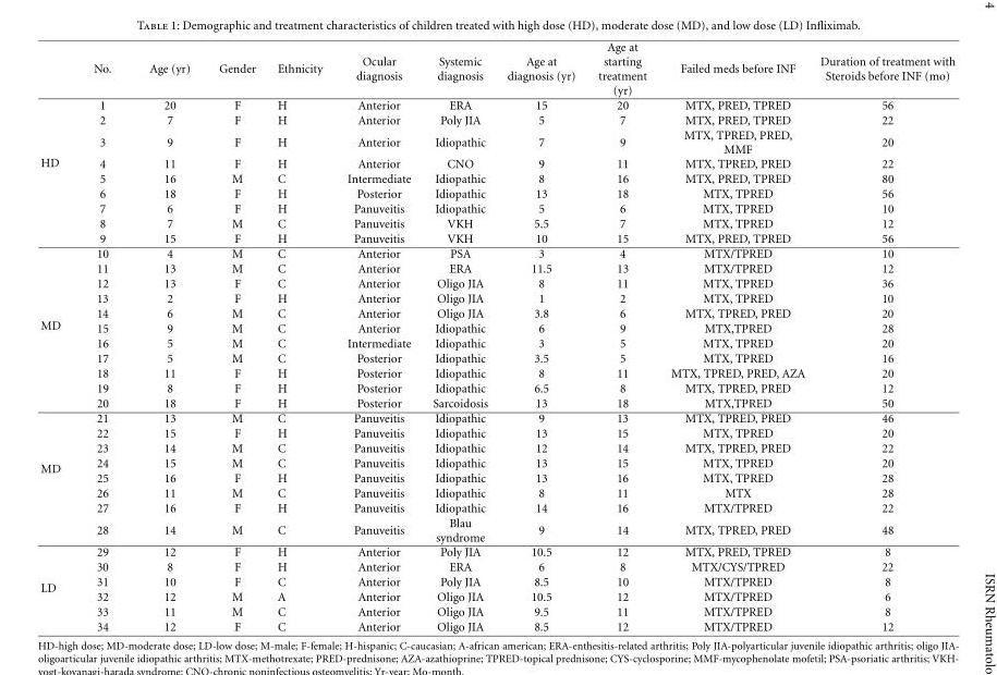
<table><thead><tr><td></td><td>No.</td><td>Age (yr)</td><td>Gender</td><td>Ethnicity</td><td>Ocular diagnosis</td><td>Systemic diagnosis</td><td>Age at diagnosis (yr)</td><td>Age at starting treatment (yr)</td><td>Failed meds before INF</td><td>Duration of treatment with Steroids before INF (mo)</td></tr></thead><tbody><tr><td rowspan="9">HD</td><td>1</td><td>20</td><td>F</td><td>H</td><td>Anterior</td><td>ERA</td><td>15</td><td>20</td><td>MTX, PRED, TPRED</td><td>56</td></tr><tr><td>2</td><td>7</td><td>F</td><td>H</td><td>Anterior</td><td>Poly JIA</td><td>5</td><td>7</td><td>MTX, PRED, TPRED</td><td>22</td></tr><tr><td>3</td><td>9</td><td>F</td><td>H</td><td>Anterior</td><td>Idiopathic</td><td>7</td><td>9</td><td>MTX, TPRED, PRED, MMF</td><td>20</td></tr><tr><td>4</td><td>11</td><td>F</td><td>H</td><td>Anterior</td><td>CNO</td><td>9</td><td>11</td><td>MTX, TPRED, PRED</td><td>22</td></tr><tr><td>5</td><td>16</td><td>M</td><td>C</td><td>Intermediate</td><td>Idiopathic</td><td>8</td><td>16</td><td>MTX, PRED, TPRED</td><td>80</td></tr><tr><td>6</td><td>18</td><td>F</td><td>H</td><td>Posterior</td><td>Idiopathic</td><td>13</td><td>18</td><td>MTX, TPRED</td><td>56</td></tr><tr><td>7</td><td>6</td><td>F</td><td>H</td><td>Panuveitis</td><td>Idiopathic</td><td>5</td><td>6</td><td>MTX, TPRED</td><td>10</td></tr><tr><td>8</td><td>7</td><td>M</td><td>C</td><td>Panuveitis</td><td>VKH</td><td>5.5</td><td>7</td><td>MTX, TPRED</td><td>12</td></tr><tr><td>9</td><td>15</td><td>F</td><td>H</td><td>Panuveitis</td><td>VKH</td><td>10</td><td>15</td><td>MTX, PRED, TPRED</td><td>56</td></tr><tr><td rowspan="11">MD</td><td>10</td><td>4</td><td>M</td><td>C</td><td>Anterior</td><td>PSA</td><td>3</td><td>4</td><td>MTX/TPRED</td><td>10</td></tr><tr><td>11</td><td>13</td><td>M</td><td>C</td><td>Anterior</td><td>ERA</td><td>11.5</td><td>13</td><td>MTX/TPRED</td><td>12</td></tr><tr><td>12</td><td>13</td><td>F</td><td>C</td><td>Anterior</td><td>Oligo JIA</td><td>8</td><td>11</td><td>MTX, TPRED</td><td>36</td></tr><tr><td>13</td><td>2</td><td>F</td><td>H</td><td>Anterior</td><td>Oligo JIA</td><td>1</td><td>2</td><td>MTX, TPRED</td><td>10</td></tr><tr><td>14</td><td>6</td><td>M</td><td>C</td><td>Anterior</td><td>Oligo JIA</td><td>3.8</td><td>6</td><td>MTX, TPRED, PRED</td><td>20</td></tr><tr><td>15</td><td>9</td><td>M</td><td>C</td><td>Anterior</td><td>Idiopathic</td><td>6</td><td>9</td><td>MTX,TPRED</td><td>28</td></tr><tr><td>16</td><td>5</td><td>M</td><td>C</td><td>Intermediate</td><td>Idiopathic</td><td>3</td><td>5</td><td>MTX, TPRED</td><td>20</td></tr><tr><td>17</td><td>5</td><td>M</td><td>C</td><td>Posterior</td><td>Idiopathic</td><td>3.5</td><td>5</td><td>MTX, TPRED</td><td>16</td></tr><tr><td>18</td><td>11</td><td>F</td><td>H</td><td>Posterior</td><td>Idiopathic</td><td>8</td><td>11</td><td>MTX, TPRED, PRED, AZA</td><td>20</td></tr><tr><td>19</td><td>8</td><td>F</td><td>H</td><td>Posterior</td><td>Idiopathic</td><td>6.5</td><td>8</td><td>MTX, TPRED, PRED</td><td>12</td></tr><tr><td>20</td><td>18</td><td>F</td><td>H</td><td>Posterior</td><td>Sarcoidosis</td><td>13</td><td>18</td><td>MTX,TPRED</td><td>50</td></tr><tr><td rowspan="8">MD</td><td>21</td><td>13</td><td>M</td><td>C</td><td>Panuveitis</td><td>Idiopathic</td><td>9</td><td>13</td><td>MTX, TPRED, PRED</td><td>46</td></tr><tr><td>22</td><td>15</td><td>F</td><td>H</td><td>Panuveitis</td><td>Idiopathic</td><td>13</td><td>15</td><td>MTX, TPRED</td><td>20</td></tr><tr><td>23</td><td>14</td><td>M</td><td>C</td><td>Panuveitis</td><td>Idiopathic</td><td>12</td><td>14</td><td>MTX, TPRED, PRED</td><td>22</td></tr><tr><td>24</td><td>15</td><td>M</td><td>C</td><td>Panuveitis</td><td>Idiopathic</td><td>13</td><td>15</td><td>MTX, TPRED</td><td>20</td></tr><tr><td>25</td><td>16</td><td>F</td><td>H</td><td>Panuveitis</td><td>Idiopathic</td><td>13</td><td>16</td><td>MTX, TPRED</td><td>28</td></tr><tr><td>26</td><td>11</td><td>M</td><td>C</td><td>Panuveitis</td><td>Idiopathic</td><td>8</td><td>11</td><td>MTX</td><td>28</td></tr><tr><td>27</td><td>16</td><td>F</td><td>H</td><td>Panuveitis</td><td>Idiopathic</td><td>14</td><td>16</td><td>MTX/TPRED</td><td>22</td></tr><tr><td>28</td><td>14</td><td>M</td><td>C</td><td>Panuveitis</td><td>Blau syndrome</td><td>9</td><td>14</td><td>MTX, TPRED, PRED</td><td>48</td></tr><tr><td rowspan="6">LD</td><td>29</td><td>12</td><td>F</td><td>H</td><td>Anterior</td><td>Poly JIA</td><td>10.5</td><td>12</td><td>MTX, PRED, TPRED</td><td>8</td></tr><tr><td>30</td><td>8</td><td>F</td><td>H</td><td>Anterior</td><td>ERA</td><td>6</td><td>8</td><td>MTX/CYS/TPRED</td><td>22</td></tr><tr><td>31</td><td>10</td><td>F</td><td>C</td><td>Anterior</td><td>Poly JIA</td><td>8.5</td><td>10</td><td>MTX/TPRED</td><td>8</td></tr><tr><td>32</td><td>12</td><td>M</td><td>A</td><td>Anterior</td><td>Oligo JIA</td><td>10.5</td><td>12</td><td>MTX/TPRED</td><td>6</td></tr><tr><td>33</td><td>11</td><td>M</td><td>C</td><td>Anterior</td><td>Oligo JIA</td><td>9.5</td><td>11</td><td>MTX/TPRED</td><td>8</td></tr><tr><td>34</td><td>12</td><td>F</td><td>C</td><td>Anterior</td><td>Oligo JIA</td><td>8.5</td><td>12</td><td>MTX/TPRED</td><td>12</td></tr></tbody></table>